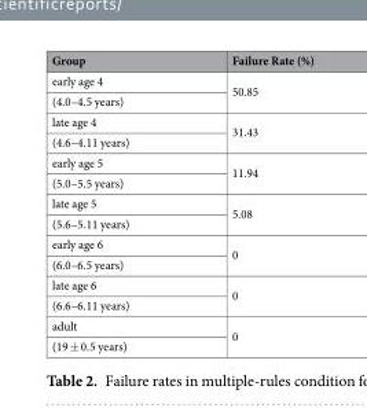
<table><thead><tr><td>Group</td><td>Failure Rate (%)</td></tr></thead><tbody><tr><td>early age 4</td><td rowspan="2">50.85</td></tr><tr><td>(4.0–4.5 years)</td></tr><tr><td>late age 4</td><td rowspan="2">31.43</td></tr><tr><td>(4.6–4.11 years)</td></tr><tr><td>early age 5</td><td rowspan="2">11.94</td></tr><tr><td>(5.0–5.5 years)</td></tr><tr><td>late age 5</td><td rowspan="2">5.08</td></tr><tr><td>(5.6–5.11 years)</td></tr><tr><td>early age 6</td><td rowspan="2">0</td></tr><tr><td>(6.0–6.5 years)</td></tr><tr><td>late age 6</td><td rowspan="2">0</td></tr><tr><td>(6.6–6.11 years)</td></tr><tr><td>adult</td><td rowspan="2">0</td></tr><tr><td>(19 ± 0.5 years)</td></tr></tbody></table>